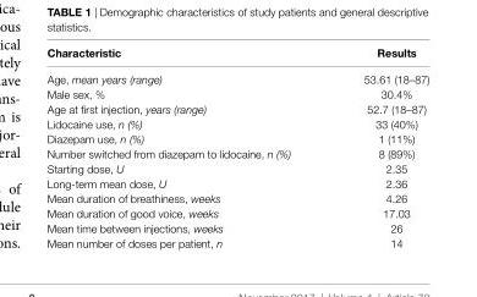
<table><thead><tr><td>characteristic</td><td>results</td></tr></thead><tbody><tr><td>Age, mean years (range)</td><td>53.61 (18–87)</td></tr><tr><td>Male sex, %</td><td>30.4%</td></tr><tr><td>Age at first injection, years (range)</td><td>52.7 (18–87)</td></tr><tr><td>Lidocaine use, n (%)</td><td>33 (40%)</td></tr><tr><td>Diazepam use, n (%)</td><td>1 (11%)</td></tr><tr><td>Number switched from diazepam to lidocaine, n (%)</td><td>8 (89%)</td></tr><tr><td>Starting dose, U</td><td>2.35</td></tr><tr><td>Long-term mean dose, U</td><td>2.36</td></tr><tr><td>Mean duration of breathiness, weeks</td><td>4.26</td></tr><tr><td>Mean duration of good voice, weeks</td><td>17.03</td></tr><tr><td>Mean time between injections, weeks</td><td>26</td></tr><tr><td>Mean number of doses per patient, n</td><td>14</td></tr></tbody></table>